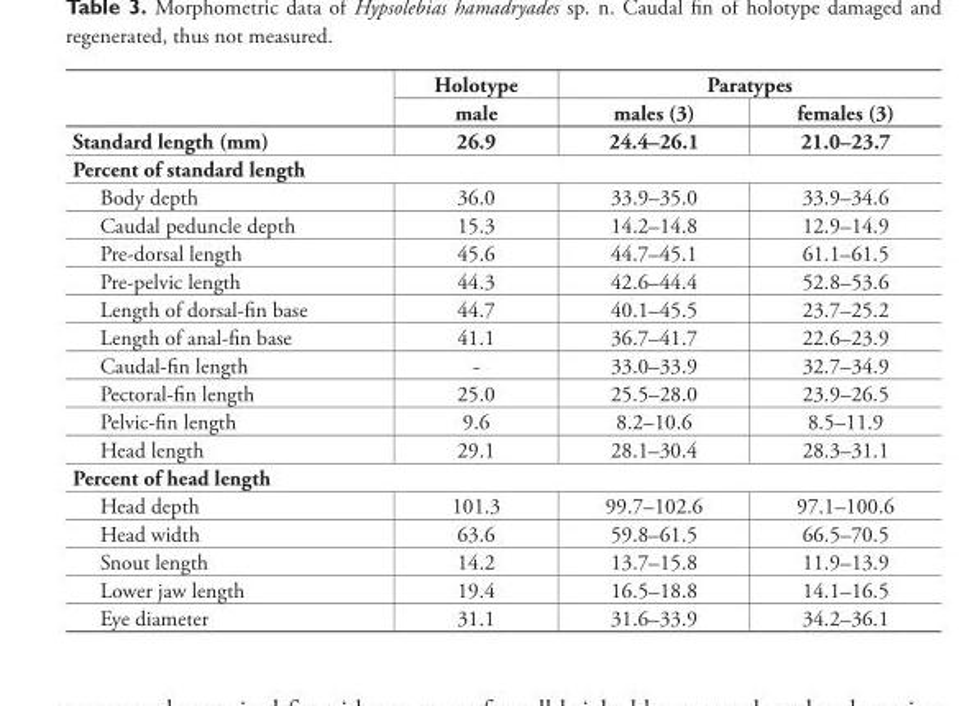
<table><thead><tr><td rowspan="2"></td><td rowspan="2">Holotype male</td><td colspan="2">Paratypes</td></tr><tr><td>males (3)</td><td>females (3)</td></tr></thead><tbody><tr><td>Standard length (mm)</td><td>26.9</td><td>24.4–26.1</td><td>21.0–23.7</td></tr><tr><td colspan="4">Percent of standard length</td></tr><tr><td>Body depth</td><td>36.0</td><td>33.9–35.0</td><td>33.9–34.6</td></tr><tr><td>Caudal peduncle depth</td><td>15.3</td><td>14.2–14.8</td><td>12.9–14.9</td></tr><tr><td>Pre-dorsal length</td><td>45.6</td><td>44.7–45.1</td><td>61.1–61.5</td></tr><tr><td>Pre-pelvic length</td><td>44.3</td><td>42.6–44.4</td><td>52.8–53.6</td></tr><tr><td>Length of dorsal-fin base</td><td>44.7</td><td>40.1–45.5</td><td>23.7–25.2</td></tr><tr><td>Length of anal-fin base</td><td>41.1</td><td>36.7–41.7</td><td>22.6–23.9</td></tr><tr><td>Caudal-fin length</td><td>-</td><td>33.0–33.9</td><td>32.7–34.9</td></tr><tr><td>Pectoral-fin length</td><td>25.0</td><td>25.5–28.0</td><td>23.9–26.5</td></tr><tr><td>Pelvic-fin length</td><td>9.6</td><td>8.2–10.6</td><td>8.5–11.9</td></tr><tr><td>Head length</td><td>29.1</td><td>28.1–30.4</td><td>28.3–31.1</td></tr><tr><td colspan="4">Percent of head length</td></tr><tr><td>Head depth</td><td>101.3</td><td>99.7–102.6</td><td>97.1–100.6</td></tr><tr><td>Head width</td><td>63.6</td><td>59.8–61.5</td><td>66.5–70.5</td></tr><tr><td>Snout length</td><td>14.2</td><td>13.7–15.8</td><td>11.9–13.9</td></tr><tr><td>Lower jaw length</td><td>19.4</td><td>16.5–18.8</td><td>14.1–16.5</td></tr><tr><td>Eye diameter</td><td>31.1</td><td>31.6–33.9</td><td>34.2–36.1</td></tr></tbody></table>